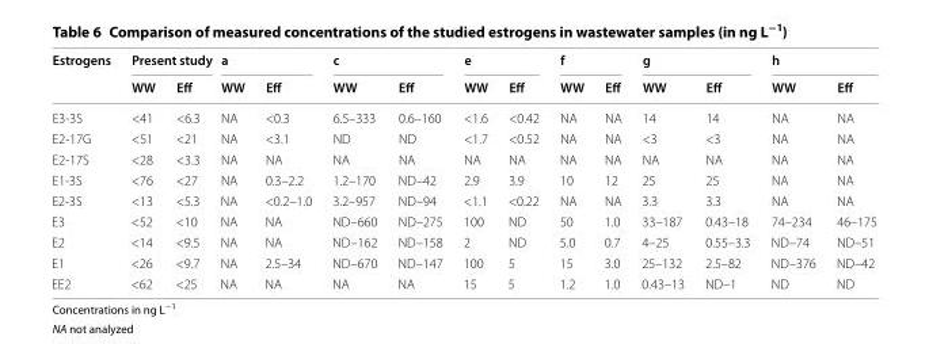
<table><thead><tr><td rowspan="2">Estrogens</td><td colspan="2">Present study</td><td colspan="2">a</td><td colspan="2">c</td><td colspan="2">e</td><td colspan="2">f</td><td colspan="2">g</td><td colspan="2">h</td></tr><tr><td>WW</td><td>Eff</td><td>WW</td><td>Eff</td><td>WW</td><td>Eff</td><td>WW</td><td>Eff</td><td>WW</td><td>Eff</td><td>WW</td><td>Eff</td><td>WW</td><td>Eff</td></tr></thead><tbody><tr><td>E3-3S</td><td>&lt;41</td><td>&lt;6.3</td><td>NA</td><td>&lt;0.3</td><td>6.5–333</td><td>0.6–160</td><td>&lt;1.6</td><td>&lt;0.42</td><td>NA</td><td>NA</td><td>14</td><td>14</td><td>NA</td><td>NA</td></tr><tr><td>E2-17G</td><td>&lt;51</td><td>&lt;21</td><td>NA</td><td>&lt;3.1</td><td>ND</td><td>ND</td><td>&lt;1.7</td><td>&lt;0.52</td><td>NA</td><td>NA</td><td>&lt;3</td><td>&lt;3</td><td>NA</td><td>NA</td></tr><tr><td>E2-17S</td><td>&lt;28</td><td>&lt;3.3</td><td>NA</td><td>NA</td><td>NA</td><td>NA</td><td>NA</td><td>NA</td><td>NA</td><td>NA</td><td>NA</td><td>NA</td><td>NA</td><td>NA</td></tr><tr><td>E1-3S</td><td>&lt;76</td><td>&lt;27</td><td>NA</td><td>0.3–2.2</td><td>1.2–170</td><td>ND–42</td><td>2.9</td><td>3.9</td><td>10</td><td>12</td><td>25</td><td>25</td><td>NA</td><td>NA</td></tr><tr><td>E2-3S</td><td>&lt;13</td><td>&lt;5.3</td><td>NA</td><td>&lt;0.2–1.0</td><td>3.2–957</td><td>ND–94</td><td>&lt;1.1</td><td>&lt;0.22</td><td>NA</td><td>NA</td><td>3.3</td><td>3.3</td><td>NA</td><td>NA</td></tr><tr><td>E3</td><td>&lt;52</td><td>&lt;10</td><td>NA</td><td>NA</td><td>ND–660</td><td>ND–275</td><td>100</td><td>ND</td><td>50</td><td>1.0</td><td>33–187</td><td>0.43–18</td><td>74–234</td><td>46–175</td></tr><tr><td>E2</td><td>&lt;14</td><td>&lt;9.5</td><td>NA</td><td>NA</td><td>ND–162</td><td>ND–158</td><td>2</td><td>ND</td><td>5.0</td><td>0.7</td><td>4–25</td><td>0.55–3.3</td><td>ND–74</td><td>ND–51</td></tr><tr><td>E1</td><td>&lt;26</td><td>&lt;9.7</td><td>NA</td><td>2.5–34</td><td>ND–670</td><td>ND–147</td><td>100</td><td>5</td><td>15</td><td>3.0</td><td>25–132</td><td>2.5–82</td><td>ND–376</td><td>ND–42</td></tr><tr><td>EE2</td><td>&lt;62</td><td>&lt;25</td><td>NA</td><td>NA</td><td>NA</td><td>NA</td><td>15</td><td>5</td><td>1.2</td><td>1.0</td><td>0.43–13</td><td>ND–1</td><td>ND</td><td>ND</td></tr></tbody></table>